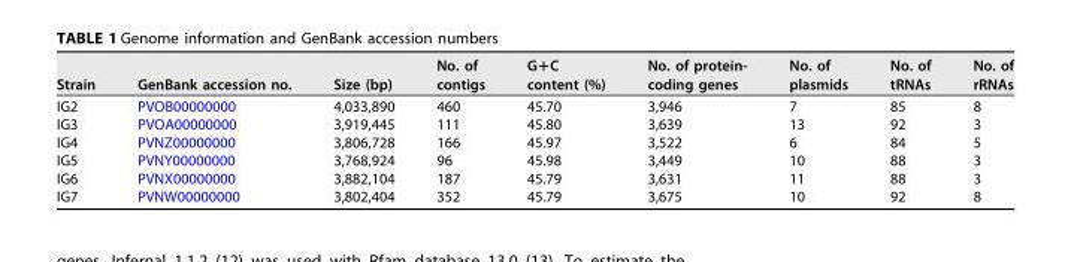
<table><thead><tr><td>Strain</td><td>GenBank accession no.</td><td>Size (bp)</td><td>No. of contigs</td><td>G+C content (%)</td><td>No. of protein- coding genes</td><td>No. of plasmids</td><td>No. of tRNAs</td><td>No. of rRNAs</td></tr></thead><tbody><tr><td>IG2</td><td>PVOB00000000</td><td>4,033,890</td><td>460</td><td>45.70</td><td>3,946</td><td>7</td><td>85</td><td>8</td></tr><tr><td>IG3</td><td>PVOA00000000</td><td>3,919,445</td><td>111</td><td>45.80</td><td>3,639</td><td>13</td><td>92</td><td>3</td></tr><tr><td>IG4</td><td>PVNZ00000000</td><td>3,806,728</td><td>166</td><td>45.97</td><td>3,522</td><td>6</td><td>84</td><td>5</td></tr><tr><td>IG5</td><td>PVNY00000000</td><td>3,768,924</td><td>96</td><td>45.98</td><td>3,449</td><td>10</td><td>88</td><td>3</td></tr><tr><td>IG6</td><td>PVNX00000000</td><td>3,882,104</td><td>187</td><td>45.79</td><td>3,631</td><td>11</td><td>88</td><td>3</td></tr><tr><td>IG7</td><td>PVNW00000000</td><td>3,802,404</td><td>352</td><td>45.79</td><td>3,675</td><td>10</td><td>92</td><td>8</td></tr></tbody></table>